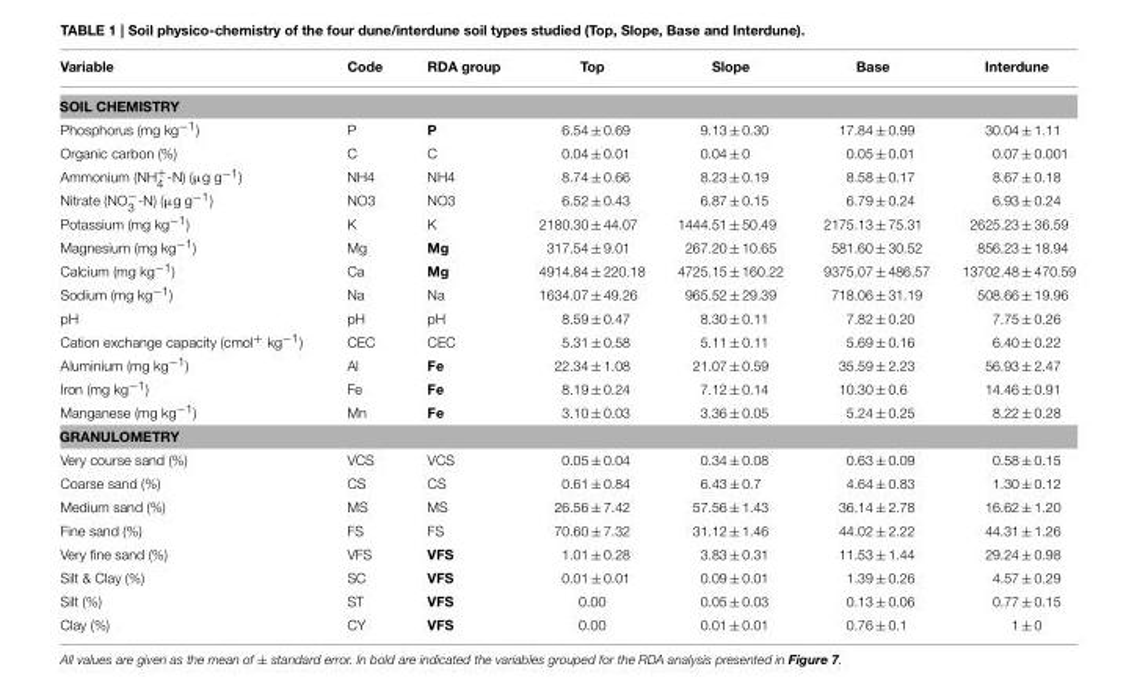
<table><thead><tr><td>Variable</td><td>Code</td><td>RDA group</td><td>Top</td><td>Slope</td><td>Base</td><td>Interdune</td></tr></thead><tbody><tr><td colspan="7">SOIL CHEMISTRY</td></tr><tr><td>Phosphorus (mg kg<sup>−1</sup>)</td><td>P</td><td>P</td><td>6.54 ± 0.69</td><td>9.13 ± 0.30</td><td>17.84 ± 0.99</td><td>30.04 ± 1.11</td></tr><tr><td>Organic carbon (%)</td><td>C</td><td>C</td><td>0.04 ± 0.01</td><td>0.04 ± 0</td><td>0.05 ± 0.01</td><td>0.07 ± 0.001</td></tr><tr><td>Ammonium (NH<sup>+</sup> <sub>4</sub> -N) (µg g<sup>−1</sup>)</td><td>NH4</td><td>NH4</td><td>8.74 ± 0.66</td><td>8.23 ± 0.19</td><td>8.58 ± 0.17</td><td>8.67 ± 0.18</td></tr><tr><td>Nitrate (NO<sup>−</sup> <sub>3</sub> -N) (µg g<sup>−1</sup>)</td><td>NO3</td><td>NO3</td><td>6.52 ± 0.43</td><td>6.87 ± 0.15</td><td>6.79 ± 0.24</td><td>6.93 ± 0.24</td></tr><tr><td>Potassium (mg kg<sup>−1</sup>)</td><td>K</td><td>K</td><td>2180.30 ± 44.07</td><td>1444.51 ± 50.49</td><td>2175.13 ± 75.31</td><td>2625.23 ± 36.59</td></tr><tr><td>Magnesium (mg kg<sup>−1</sup>)</td><td>Mg</td><td>Mg</td><td>317.54 ± 9.01</td><td>267.20 ± 10.65</td><td>581.60 ± 30.52</td><td>856.23 ± 18.94</td></tr><tr><td>Calcium (mg kg<sup>−1</sup>)</td><td>Ca</td><td>Mg</td><td>4914.84 ± 220.18</td><td>4725.15 ± 160.22</td><td>9375.07 ± 486.57</td><td>13702.48 ± 470.59</td></tr><tr><td>Sodium (mg kg<sup>−1</sup>)</td><td>Na</td><td>Na</td><td>1634.07 ± 49.26</td><td>965.52 ± 29.39</td><td>718.06 ± 31.19</td><td>508.66 ± 19.96</td></tr><tr><td>pH</td><td>pH</td><td>pH</td><td>8.59 ± 0.47</td><td>8.30 ± 0.11</td><td>7.82 ± 0.20</td><td>7.75 ± 0.26</td></tr><tr><td>Cation exchange capacity (cmol<sup>+</sup> kg<sup>−1</sup>)</td><td>CEC</td><td>CEC</td><td>5.31 ± 0.58</td><td>5.11 ± 0.11</td><td>5.69 ± 0.16</td><td>6.40 ± 0.22</td></tr><tr><td>Aluminium (mg kg<sup>−1</sup>)</td><td>Al</td><td>Fe</td><td>22.34 ± 1.08</td><td>21.07 ± 0.59</td><td>35.59 ± 2.23</td><td>56.93 ± 2.47</td></tr><tr><td>Iron (mg kg<sup>−1</sup>)</td><td>Fe</td><td>Fe</td><td>8.19 ± 0.24</td><td>7.12 ± 0.14</td><td>10.30 ± 0.6</td><td>14.46 ± 0.91</td></tr><tr><td>Manganese (mg kg<sup>−1</sup>)</td><td>Mn</td><td>Fe</td><td>3.10 ± 0.03</td><td>3.36 ± 0.05</td><td>5.24 ± 0.25</td><td>8.22 ± 0.28</td></tr><tr><td colspan="7">GRANULOMETRY</td></tr><tr><td>Very course sand (%)</td><td>VCS</td><td>VCS</td><td>0.05 ± 0.04</td><td>0.34 ± 0.08</td><td>0.63 ± 0.09</td><td>0.58 ± 0.15</td></tr><tr><td>Coarse sand (%)</td><td>CS</td><td>CS</td><td>0.61 ± 0.84</td><td>6.43 ± 0.7</td><td>4.64 ± 0.83</td><td>1.30 ± 0.12</td></tr><tr><td>Medium sand (%)</td><td>MS</td><td>MS</td><td>26.56 ± 7.42</td><td>57.56 ± 1.43</td><td>36.14 ± 2.78</td><td>16.62 ± 1.20</td></tr><tr><td>Fine sand (%)</td><td>FS</td><td>FS</td><td>70.60 ± 7.32</td><td>31.12 ± 1.46</td><td>44.02 ± 2.22</td><td>44.31 ± 1.26</td></tr><tr><td>Very fine sand (%)</td><td>VFS</td><td>VFS</td><td>1.01 ± 0.28</td><td>3.83 ± 0.31</td><td>11.53 ± 1.44</td><td>29.24 ± 0.98</td></tr><tr><td>Silt &amp; Clay (%)</td><td>SC</td><td>VFS</td><td>0.01 ± 0.01</td><td>0.09 ± 0.01</td><td>1.39 ± 0.26</td><td>4.57 ± 0.29</td></tr><tr><td>Silt (%)</td><td>ST</td><td>VFS</td><td>0.00</td><td>0.05 ± 0.03</td><td>0.13 ± 0.06</td><td>0.77 ± 0.15</td></tr><tr><td>Clay (%)</td><td>CY</td><td>VFS</td><td>0.00</td><td>0.01 ± 0.01</td><td>0.76 ± 0.1</td><td>1 ± 0</td></tr></tbody></table>